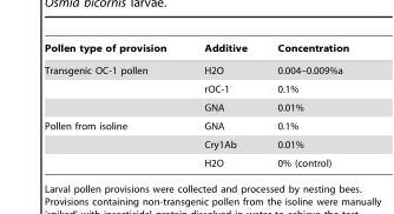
<table><thead><tr><td>Pollen type of provision</td><td>Additive</td><td>Concentration</td></tr></thead><tbody><tr><td rowspan="3">Transgenic OC-1 pollen</td><td>H2O</td><td>0.004–0.009%a</td></tr><tr><td>rOC-1</td><td>0.1%</td></tr><tr><td>GNA</td><td>0.01%</td></tr><tr><td rowspan="3">Pollen from isoline</td><td>GNA</td><td>0.1%</td></tr><tr><td>Cry1Ab</td><td>0.01%</td></tr><tr><td>H2O</td><td>0% (control)</td></tr></tbody></table>